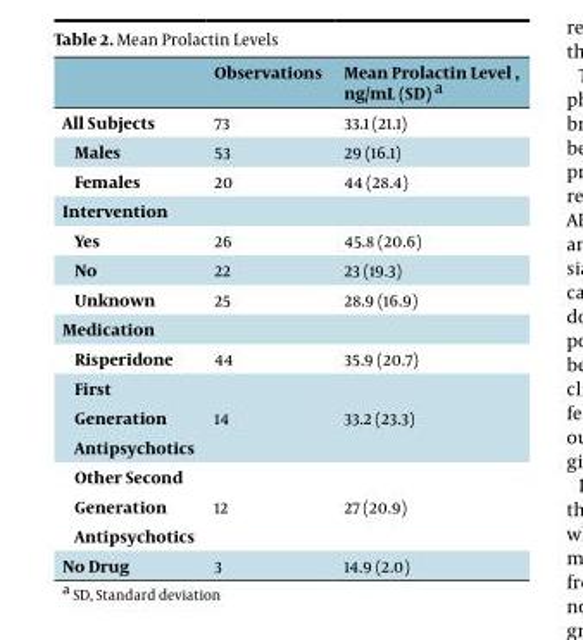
<table><thead><tr><td></td><td>Observations</td><td>Mean Prolactin Level , ng/mL (SD) a</td></tr></thead><tbody><tr><td>All Subjects</td><td>73</td><td>33.1 (21.1)</td></tr><tr><td>Males</td><td>53</td><td>29 (16.1)</td></tr><tr><td>Females</td><td>20</td><td>44 (28.4)</td></tr><tr><td colspan="3">Intervention</td></tr><tr><td>Yes</td><td>26</td><td>45.8 (20.6)</td></tr><tr><td>No</td><td>22</td><td>23 (19.3)</td></tr><tr><td>Unknown</td><td>25</td><td>28.9 (16.9)</td></tr><tr><td colspan="3">Medication</td></tr><tr><td>Risperidone</td><td>44</td><td>35.9 (20.7)</td></tr><tr><td>First Generation Antipsychotics</td><td>14</td><td>33.2 (23.3)</td></tr><tr><td>Other Second Generation Antipsychotics</td><td>12</td><td>27 (20.9)</td></tr><tr><td>No Drug</td><td>3</td><td>14.9 (2.0)</td></tr></tbody></table>